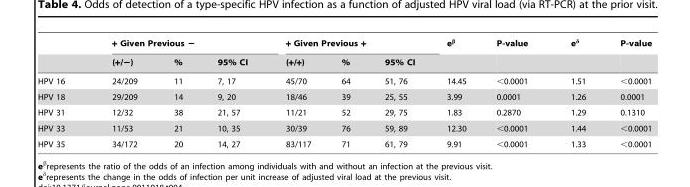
<table><thead><tr><td rowspan="2"></td><td colspan="3">+ Given Previous −</td><td colspan="3">+ Given Previous +</td><td rowspan="2">e<sup>β</sup></td><td rowspan="2">P-value</td><td rowspan="2">e<sup>δ</sup></td><td rowspan="2">P-value</td></tr><tr><td>(+/−)</td><td>%</td><td>95% CI</td><td>(+/+)</td><td>%</td><td>95% CI</td></tr></thead><tbody><tr><td>HPV 16</td><td>24/209</td><td>11</td><td>7, 17</td><td>45/70</td><td>64</td><td>51, 76</td><td>14.45</td><td>&lt;0.0001</td><td>1.51</td><td>&lt;0.0001</td></tr><tr><td>HPV 18</td><td>29/209</td><td>14</td><td>9, 20</td><td>18/46</td><td>39</td><td>25, 55</td><td>3.99</td><td>0.0001</td><td>1.26</td><td>0.0001</td></tr><tr><td>HPV 31</td><td>12/32</td><td>38</td><td>21, 57</td><td>11/21</td><td>52</td><td>29, 75</td><td>1.83</td><td>0.2870</td><td>1.29</td><td>0.1310</td></tr><tr><td>HPV 33</td><td>11/53</td><td>21</td><td>10, 35</td><td>30/39</td><td>76</td><td>59, 89</td><td>12.30</td><td>&lt;0.0001</td><td>1.44</td><td>&lt;0.0001</td></tr><tr><td>HPV 35</td><td>34/172</td><td>20</td><td>14, 27</td><td>83/117</td><td>71</td><td>61, 79</td><td>9.91</td><td>&lt;0.0001</td><td>1.33</td><td>&lt;0.0001</td></tr></tbody></table>